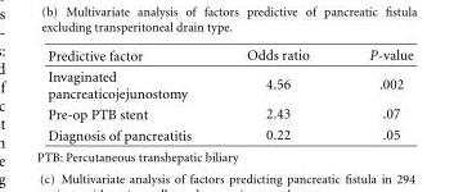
<table><thead><tr><td>Predictive factor</td><td>Odds ratio</td><td>P-value</td></tr></thead><tbody><tr><td>Invaginated pancreaticojejunostomy</td><td>4.56</td><td>.002</td></tr><tr><td>Pre-op PTB stent</td><td>2.43</td><td>.07</td></tr><tr><td>Diagnosis of pancreatitis</td><td>0.22</td><td>.05</td></tr></tbody></table>